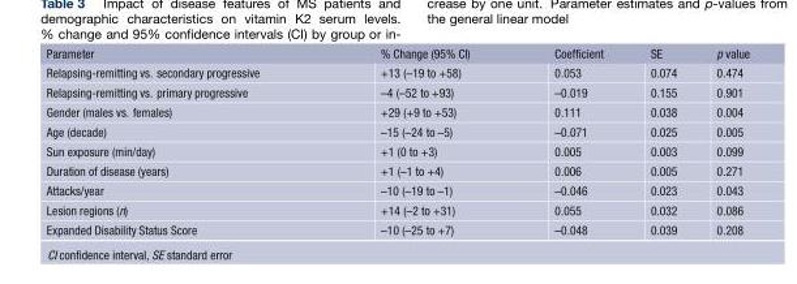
<table><thead><tr><td>Parameter</td><td>% Change (95% CI)</td><td>Coefficient</td><td>SE</td><td>p value</td></tr></thead><tbody><tr><td>Relapsing-remitting vs. secondary progressive</td><td>+13 (–19 to +58)</td><td>0.053</td><td>0.074</td><td>0.474</td></tr><tr><td>Relapsing-remitting vs. primary progressive</td><td>–4 (–52 to +93)</td><td>–0.019</td><td>0.155</td><td>0.901</td></tr><tr><td>Gender (males vs. females)</td><td>+29 (+9 to +53)</td><td>0.111</td><td>0.038</td><td>0.004</td></tr><tr><td>Age (decade)</td><td>–15 (–24 to –5)</td><td>–0.071</td><td>0.025</td><td>0.005</td></tr><tr><td>Sun exposure (min/day)</td><td>+1 (0 to +3)</td><td>0.005</td><td>0.003</td><td>0.099</td></tr><tr><td>Duration of disease (years)</td><td>+1 (–1 to +4)</td><td>0.006</td><td>0.005</td><td>0.271</td></tr><tr><td>Attacks/year</td><td>–10 (–19 to –1)</td><td>–0.046</td><td>0.023</td><td>0.043</td></tr><tr><td>Lesion regions (n)</td><td>+14 (–2 to +31)</td><td>0.055</td><td>0.032</td><td>0.086</td></tr><tr><td>Expanded Disability Status Score</td><td>–10 (–25 to +7)</td><td>–0.048</td><td>0.039</td><td>0.208</td></tr></tbody></table>